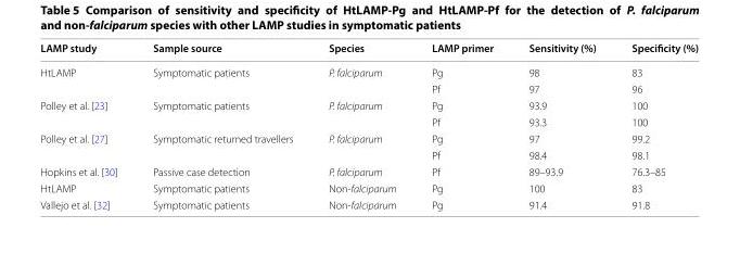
<table><thead><tr><td>LAMP study</td><td>Sample source</td><td>Species</td><td>LAMP primer</td><td>Sensitivity (%)</td><td>Specificity (%)</td></tr></thead><tbody><tr><td rowspan="2">HtLAMP</td><td rowspan="2">Symptomatic patients</td><td rowspan="2">P. falciparum</td><td>Pg</td><td>98</td><td>83</td></tr><tr><td>Pf</td><td>97</td><td>96</td></tr><tr><td rowspan="2">Polley et al. [23]</td><td rowspan="2">Symptomatic patients</td><td rowspan="2">P. falciparum</td><td>Pg</td><td>93.9</td><td>100</td></tr><tr><td>Pf</td><td>93.3</td><td>100</td></tr><tr><td rowspan="2">Polley et al. [27]</td><td rowspan="2">Symptomatic returned travellers</td><td rowspan="2">P. falciparum</td><td>Pg</td><td>97</td><td>99.2</td></tr><tr><td>Pf</td><td>98.4</td><td>98.1</td></tr><tr><td>Hopkins et al. [30]</td><td>Passive case detection</td><td>P. falciparum</td><td>Pf</td><td>89–93.9</td><td>76.3–85</td></tr><tr><td>HtLAMP</td><td>Symptomatic patients</td><td>Non-falciparum</td><td>Pg</td><td>100</td><td>83</td></tr><tr><td>Vallejo et al. [32]</td><td>Symptomatic patients</td><td>Non-falciparum</td><td>Pg</td><td>91.4</td><td>91.8</td></tr></tbody></table>